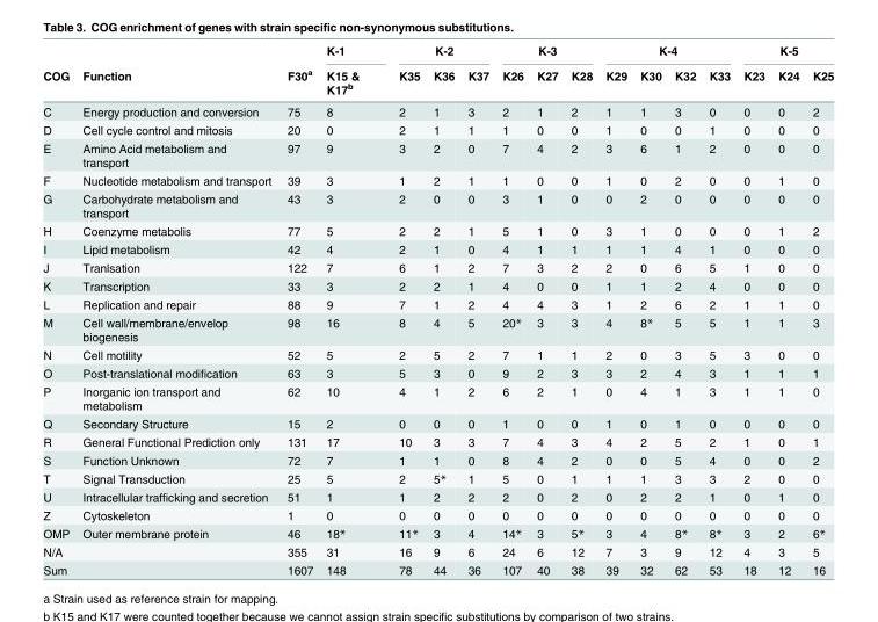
<table><thead><tr><td rowspan="2">COG</td><td rowspan="2">Function</td><td rowspan="2">F30<sup>a</sup></td><td rowspan="2">K-1 K15 &amp; K17<sup>b</sup></td><td colspan="3">K-2</td><td colspan="3">K-3</td><td colspan="4">K-4</td><td colspan="3">K-5</td></tr><tr><td>K35</td><td>K36</td><td>K37</td><td>K26</td><td>K27</td><td>K28</td><td>K29</td><td>K30</td><td>K32</td><td>K33</td><td>K23</td><td>K24</td><td>K25</td></tr></thead><tbody><tr><td>C</td><td>Energy production and conversion</td><td>75</td><td>8</td><td>2</td><td>1</td><td>3</td><td>2</td><td>1</td><td>2</td><td>1</td><td>1</td><td>3</td><td>0</td><td>0</td><td>0</td><td>2</td></tr><tr><td>D</td><td>Cell cycle control and mitosis</td><td>20</td><td>0</td><td>2</td><td>1</td><td>1</td><td>1</td><td>0</td><td>0</td><td>1</td><td>0</td><td>0</td><td>1</td><td>0</td><td>0</td><td>0</td></tr><tr><td>E</td><td>Amino Acid metabolism and transport</td><td>97</td><td>9</td><td>3</td><td>2</td><td>0</td><td>7</td><td>4</td><td>2</td><td>3</td><td>6</td><td>1</td><td>2</td><td>0</td><td>0</td><td>0</td></tr><tr><td>F</td><td>Nucleotide metabolism and transport</td><td>39</td><td>3</td><td>1</td><td>2</td><td>1</td><td>1</td><td>0</td><td>0</td><td>1</td><td>0</td><td>2</td><td>0</td><td>0</td><td>1</td><td>0</td></tr><tr><td>G</td><td>Carbohydrate metabolism and transport</td><td>43</td><td>3</td><td>2</td><td>0</td><td>0</td><td>3</td><td>1</td><td>0</td><td>0</td><td>2</td><td>0</td><td>0</td><td>0</td><td>0</td><td>0</td></tr><tr><td>H</td><td>Coenzyme metabolis</td><td>77</td><td>5</td><td>2</td><td>2</td><td>1</td><td>5</td><td>1</td><td>0</td><td>3</td><td>1</td><td>0</td><td>0</td><td>0</td><td>1</td><td>2</td></tr><tr><td>I</td><td>Lipid metabolism</td><td>42</td><td>4</td><td>2</td><td>1</td><td>0</td><td>4</td><td>1</td><td>1</td><td>1</td><td>1</td><td>4</td><td>1</td><td>0</td><td>0</td><td>0</td></tr><tr><td>J</td><td>Tranlsation</td><td>122</td><td>7</td><td>6</td><td>1</td><td>2</td><td>7</td><td>3</td><td>2</td><td>2</td><td>0</td><td>6</td><td>5</td><td>1</td><td>0</td><td>0</td></tr><tr><td>K</td><td>Transcription</td><td>33</td><td>3</td><td>2</td><td>2</td><td>1</td><td>4</td><td>0</td><td>0</td><td>1</td><td>1</td><td>2</td><td>4</td><td>0</td><td>0</td><td>0</td></tr><tr><td>L</td><td>Replication and repair</td><td>88</td><td>9</td><td>7</td><td>1</td><td>2</td><td>4</td><td>4</td><td>3</td><td>1</td><td>2</td><td>6</td><td>2</td><td>1</td><td>1</td><td>0</td></tr><tr><td>M</td><td>Cell wall/membrane/envelop biogenesis</td><td>98</td><td>16</td><td>8</td><td>4</td><td>5</td><td>20*</td><td>3</td><td>3</td><td>4</td><td>8*</td><td>5</td><td>5</td><td>1</td><td>1</td><td>3</td></tr><tr><td>N</td><td>Cell motility</td><td>52</td><td>5</td><td>2</td><td>5</td><td>2</td><td>7</td><td>1</td><td>1</td><td>2</td><td>0</td><td>3</td><td>5</td><td>3</td><td>0</td><td>0</td></tr><tr><td>O</td><td>Post-translational modification</td><td>63</td><td>3</td><td>5</td><td>3</td><td>0</td><td>9</td><td>2</td><td>3</td><td>3</td><td>2</td><td>4</td><td>3</td><td>1</td><td>1</td><td>1</td></tr><tr><td>P</td><td>Inorganic ion transport and metabolism</td><td>62</td><td>10</td><td>4</td><td>1</td><td>2</td><td>6</td><td>2</td><td>1</td><td>0</td><td>4</td><td>1</td><td>3</td><td>1</td><td>1</td><td>0</td></tr><tr><td>Q</td><td>Secondary Structure</td><td>15</td><td>2</td><td>0</td><td>0</td><td>0</td><td>1</td><td>0</td><td>0</td><td>1</td><td>0</td><td>1</td><td>0</td><td>0</td><td>0</td><td>0</td></tr><tr><td>R</td><td>General Functional Prediction only</td><td>131</td><td>17</td><td>10</td><td>3</td><td>3</td><td>7</td><td>4</td><td>3</td><td>4</td><td>2</td><td>5</td><td>2</td><td>1</td><td>0</td><td>1</td></tr><tr><td>S</td><td>Function Unknown</td><td>72</td><td>7</td><td>1</td><td>1</td><td>0</td><td>8</td><td>4</td><td>2</td><td>0</td><td>0</td><td>5</td><td>4</td><td>0</td><td>0</td><td>2</td></tr><tr><td>T</td><td>Signal Transduction</td><td>25</td><td>5</td><td>2</td><td>5*</td><td>1</td><td>5</td><td>0</td><td>1</td><td>1</td><td>1</td><td>3</td><td>3</td><td>2</td><td>0</td><td>0</td></tr><tr><td>U</td><td>Intracellular trafficking and secretion</td><td>51</td><td>1</td><td>1</td><td>2</td><td>2</td><td>2</td><td>0</td><td>2</td><td>0</td><td>2</td><td>2</td><td>1</td><td>0</td><td>1</td><td>0</td></tr><tr><td>Z</td><td>Cytoskeleton</td><td>1</td><td>0</td><td>0</td><td>0</td><td>0</td><td>0</td><td>0</td><td>0</td><td>0</td><td>0</td><td>0</td><td>0</td><td>0</td><td>0</td><td>0</td></tr><tr><td>OMP</td><td>Outer membrane protein</td><td>46</td><td>18*</td><td>11*</td><td>3</td><td>4</td><td>14*</td><td>3</td><td>5*</td><td>3</td><td>4</td><td>8*</td><td>8*</td><td>3</td><td>2</td><td>6*</td></tr><tr><td>N/A</td><td></td><td>355</td><td>31</td><td>16</td><td>9</td><td>6</td><td>24</td><td>6</td><td>12</td><td>7</td><td>3</td><td>9</td><td>12</td><td>4</td><td>3</td><td>5</td></tr><tr><td>Sum</td><td></td><td>1607</td><td>148</td><td>78</td><td>44</td><td>36</td><td>107</td><td>40</td><td>38</td><td>39</td><td>32</td><td>62</td><td>53</td><td>18</td><td>12</td><td>16</td></tr></tbody></table>